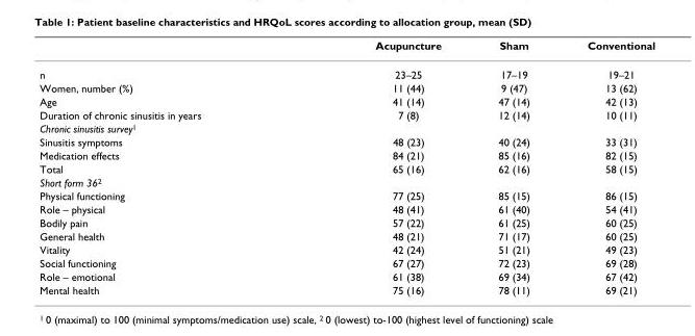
<table><thead><tr><td></td><td>Acupuncture</td><td>Sham</td><td>Conventional</td></tr></thead><tbody><tr><td>n</td><td>23–25</td><td>17–19</td><td>19–21</td></tr><tr><td>Women, number (%)</td><td>11 (44)</td><td>9 (47)</td><td>13 (62)</td></tr><tr><td>Age</td><td>41 (14)</td><td>47 (14)</td><td>42 (13)</td></tr><tr><td>Duration of chronic sinusitis in years</td><td>7 (8)</td><td>12 (14)</td><td>10 (11)</td></tr><tr><td colspan="4">Chronic sinusitis survey<sup>1</sup></td></tr><tr><td>Sinusitis symptoms</td><td>48 (23)</td><td>40 (24)</td><td>33 (31)</td></tr><tr><td>Medication effects</td><td>84 (21)</td><td>85 (16)</td><td>82 (15)</td></tr><tr><td>Total</td><td>65 (16)</td><td>62 (16)</td><td>58 (15)</td></tr><tr><td colspan="4">Short form 36<sup>2</sup></td></tr><tr><td>Physical functioning</td><td>77 (25)</td><td>85 (15)</td><td>86 (15)</td></tr><tr><td>Role – physical</td><td>48 (41)</td><td>61 (40)</td><td>54 (41)</td></tr><tr><td>Bodily pain</td><td>57 (22)</td><td>61 (25)</td><td>60 (25)</td></tr><tr><td>General health</td><td>48 (21)</td><td>71 (17)</td><td>60 (25)</td></tr><tr><td>Vitality</td><td>42 (24)</td><td>51 (21)</td><td>49 (23)</td></tr><tr><td>Social functioning</td><td>67 (27)</td><td>72 (23)</td><td>69 (28)</td></tr><tr><td>Role – emotional</td><td>61 (38)</td><td>69 (34)</td><td>67 (42)</td></tr><tr><td>Mental health</td><td>75 (16)</td><td>78 (11)</td><td>69 (21)</td></tr></tbody></table>